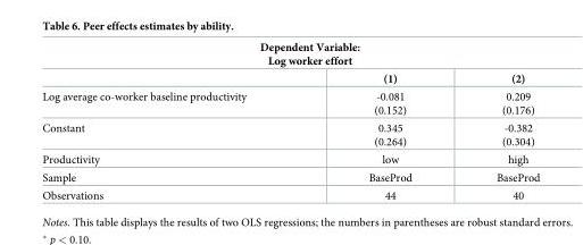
<table><thead><tr><td colspan="3">Dependent Variable: Log worker effort</td></tr><tr><td></td><td>(1)</td><td>(2)</td></tr></thead><tbody><tr><td>Log average co-worker baseline productivity</td><td>-0.081 (0.152)</td><td>0.209 (0.176)</td></tr><tr><td>Constant</td><td>0.345 (0.264)</td><td>-0.382 (0.304)</td></tr><tr><td>Productivity</td><td>low</td><td>high</td></tr><tr><td>Sample</td><td>BaseProd</td><td>BaseProd</td></tr><tr><td>Observations</td><td>44</td><td>40</td></tr></tbody></table>